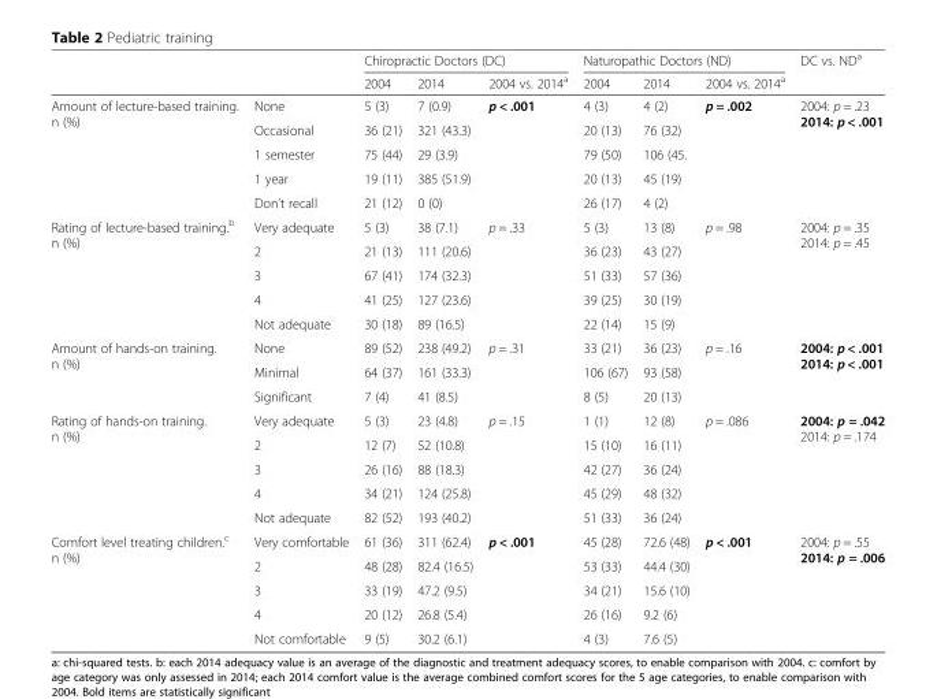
<table><thead><tr><td rowspan="2"></td><td rowspan="2"></td><td colspan="3">Chiropractic Doctors (DC)</td><td colspan="3">Naturopathic Doctors (ND)</td><td rowspan="2">DC vs. ND<sup>a</sup></td></tr><tr><td>2004</td><td>2014</td><td>2004 vs. 2014<sup>a</sup></td><td>2004</td><td>2014</td><td>2004 vs. 2014<sup>a</sup></td></tr></thead><tbody><tr><td rowspan="5">Amount of lecture-based training. n (%)</td><td>None</td><td>5 (3)</td><td>7 (0.9)</td><td rowspan="5">p &lt; .001</td><td>4 (3)</td><td>4 (2)</td><td rowspan="5">p = .002</td><td rowspan="5">2004: p = .23 2014: p &lt; .001</td></tr><tr><td>Occasional</td><td>36 (21)</td><td>321 (43.3)</td><td>20 (13)</td><td>76 (32)</td></tr><tr><td>1 semester</td><td>75 (44)</td><td>29 (3.9)</td><td>79 (50)</td><td>106 (45.</td></tr><tr><td>1 year</td><td>19 (11)</td><td>385 (51.9)</td><td>20 (13)</td><td>45 (19)</td></tr><tr><td>Don’t recall</td><td>21 (12)</td><td>0 (0)</td><td>26 (17)</td><td>4 (2)</td></tr><tr><td rowspan="5">Rating of lecture-based training.<sup>b</sup> n (%)</td><td>Very adequate</td><td>5 (3)</td><td>38 (7.1)</td><td rowspan="5">p = .33</td><td>5 (3)</td><td>13 (8)</td><td rowspan="5">p = .98</td><td rowspan="5">2004: p = .35 2014: p = .45</td></tr><tr><td>2</td><td>21 (13)</td><td>111 (20.6)</td><td>36 (23)</td><td>43 (27)</td></tr><tr><td>3</td><td>67 (41)</td><td>174 (32.3)</td><td>51 (33)</td><td>57 (36)</td></tr><tr><td>4</td><td>41 (25)</td><td>127 (23.6)</td><td>39 (25)</td><td>30 (19)</td></tr><tr><td>Not adequate</td><td>30 (18)</td><td>89 (16.5)</td><td>22 (14)</td><td>15 (9)</td></tr><tr><td rowspan="3">Amount of hands-on training. n (%)</td><td>None</td><td>89 (52)</td><td>238 (49.2)</td><td rowspan="3">p = .31</td><td>33 (21)</td><td>36 (23)</td><td rowspan="3">p = .16</td><td rowspan="3">2004: p &lt; .001 2014: p &lt; .001</td></tr><tr><td>Minimal</td><td>64 (37)</td><td>161 (33.3)</td><td>106 (67)</td><td>93 (58)</td></tr><tr><td>Significant</td><td>7 (4)</td><td>41 (8.5)</td><td>8 (5)</td><td>20 (13)</td></tr><tr><td rowspan="5">Rating of hands-on training. n (%)</td><td>Very adequate</td><td>5 (3)</td><td>23 (4.8)</td><td rowspan="5">p = .15</td><td>1 (1)</td><td>12 (8)</td><td rowspan="5">p = .086</td><td rowspan="5">2004: p = .042 2014: p = .174</td></tr><tr><td>2</td><td>12 (7)</td><td>52 (10.8)</td><td>15 (10)</td><td>16 (11)</td></tr><tr><td>3</td><td>26 (16)</td><td>88 (18.3)</td><td>42 (27)</td><td>36 (24)</td></tr><tr><td>4</td><td>34 (21)</td><td>124 (25.8)</td><td>45 (29)</td><td>48 (32)</td></tr><tr><td>Not adequate</td><td>82 (52)</td><td>193 (40.2)</td><td>51 (33)</td><td>36 (24)</td></tr><tr><td rowspan="5">Comfort level treating children.<sup>c</sup> n (%)</td><td>Very comfortable</td><td>61 (36)</td><td>311 (62.4)</td><td rowspan="5">p &lt; .001</td><td>45 (28)</td><td>72.6 (48)</td><td rowspan="5">p &lt; .001</td><td rowspan="5">2004: p = .55 2014: p = .006</td></tr><tr><td>2</td><td>48 (28)</td><td>82.4 (16.5)</td><td>53 (33)</td><td>44.4 (30)</td></tr><tr><td>3</td><td>33 (19)</td><td>47.2 (9.5)</td><td>34 (21)</td><td>15.6 (10)</td></tr><tr><td>4</td><td>20 (12)</td><td>26.8 (5.4)</td><td>26 (16)</td><td>9.2 (6)</td></tr><tr><td>Not comfortable</td><td>9 (5)</td><td>30.2 (6.1)</td><td>4 (3)</td><td>7.6 (5)</td></tr></tbody></table>